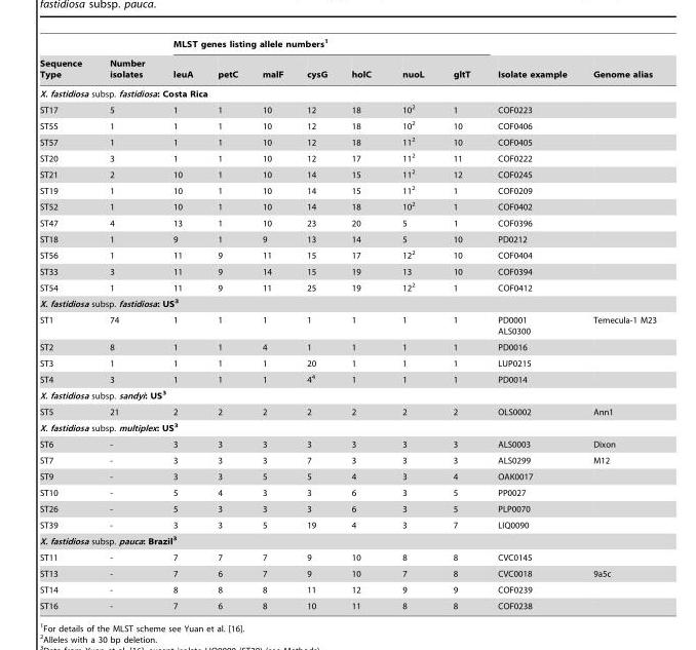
<table><thead><tr><td rowspan="2">Sequence Type</td><td rowspan="2">Number isolates</td><td colspan="7">MLST genes listing allele numbers<sup>1</sup></td><td rowspan="2">Isolate example</td><td rowspan="2">Genome alias</td></tr><tr><td>leuA</td><td>petC</td><td>malF</td><td>cysG</td><td>holC</td><td>nuoL</td><td>gltT</td></tr></thead><tbody><tr><td colspan="11">X. fastidiosa subsp. fastidiosa: Costa Rica</td></tr><tr><td>ST17</td><td>5</td><td>1</td><td>1</td><td>10</td><td>12</td><td>18</td><td>10<sup>2</sup></td><td>1</td><td>COF0223</td><td></td></tr><tr><td>ST55</td><td>1</td><td>1</td><td>1</td><td>10</td><td>12</td><td>18</td><td>10<sup>2</sup></td><td>10</td><td>COF0406</td><td></td></tr><tr><td>ST57</td><td>1</td><td>1</td><td>1</td><td>10</td><td>12</td><td>18</td><td>11<sup>2</sup></td><td>10</td><td>COF0405</td><td></td></tr><tr><td>ST20</td><td>3</td><td>1</td><td>1</td><td>10</td><td>12</td><td>17</td><td>11<sup>2</sup></td><td>11</td><td>COF0222</td><td></td></tr><tr><td>ST21</td><td>2</td><td>10</td><td>1</td><td>10</td><td>14</td><td>15</td><td>11<sup>2</sup></td><td>12</td><td>COF0245</td><td></td></tr><tr><td>ST19</td><td>1</td><td>10</td><td>1</td><td>10</td><td>14</td><td>15</td><td>11<sup>2</sup></td><td>1</td><td>COF0209</td><td></td></tr><tr><td>ST52</td><td>1</td><td>10</td><td>1</td><td>10</td><td>14</td><td>18</td><td>10<sup>2</sup></td><td>1</td><td>COF0402</td><td></td></tr><tr><td>ST47</td><td>4</td><td>13</td><td>1</td><td>10</td><td>23</td><td>20</td><td>5</td><td>1</td><td>COF0396</td><td></td></tr><tr><td>ST18</td><td>1</td><td>9</td><td>1</td><td>9</td><td>13</td><td>14</td><td>5</td><td>10</td><td>PD0212</td><td></td></tr><tr><td>ST56</td><td>1</td><td>11</td><td>9</td><td>11</td><td>15</td><td>17</td><td>12<sup>2</sup></td><td>10</td><td>COF0404</td><td></td></tr><tr><td>ST33</td><td>3</td><td>11</td><td>9</td><td>14</td><td>15</td><td>19</td><td>13</td><td>10</td><td>COF0394</td><td></td></tr><tr><td>ST54</td><td>1</td><td>11</td><td>9</td><td>11</td><td>25</td><td>19</td><td>12<sup>2</sup></td><td>1</td><td>COF0412</td><td></td></tr><tr><td colspan="11">X. fastidiosa subsp. fastidiosa: US3</td></tr><tr><td>ST1</td><td>74</td><td>1</td><td>1</td><td>1</td><td>1</td><td>1</td><td>1</td><td>1</td><td>PD0001 ALS0300</td><td>Temecula-1 M23</td></tr><tr><td>ST2</td><td>8</td><td>1</td><td>1</td><td>4</td><td>1</td><td>1</td><td>1</td><td>1</td><td>PD0016</td><td></td></tr><tr><td>ST3</td><td>1</td><td>1</td><td>1</td><td>1</td><td>20</td><td>1</td><td>1</td><td>1</td><td>LUP0215</td><td></td></tr><tr><td>ST4</td><td>3</td><td>1</td><td>1</td><td>1</td><td>4<sup>4</sup></td><td>1</td><td>1</td><td>1</td><td>PD0014</td><td></td></tr><tr><td colspan="11">X. fastidiosa subsp. sandyi: US3</td></tr><tr><td>ST5</td><td>21</td><td>2</td><td>2</td><td>2</td><td>2</td><td>2</td><td>2</td><td>2</td><td>OLS0002</td><td>Ann1</td></tr><tr><td colspan="11">X. fastidiosa subsp. multiplex: US3</td></tr><tr><td>ST6</td><td>-</td><td>3</td><td>3</td><td>3</td><td>3</td><td>3</td><td>3</td><td>3</td><td>ALS0003</td><td>Dixon</td></tr><tr><td>ST7</td><td>-</td><td>3</td><td>3</td><td>3</td><td>7</td><td>3</td><td>3</td><td>3</td><td>ALS0299</td><td>M12</td></tr><tr><td>ST9</td><td>-</td><td>3</td><td>3</td><td>5</td><td>5</td><td>4</td><td>3</td><td>4</td><td>OAK0017</td><td></td></tr><tr><td>ST10</td><td>-</td><td>5</td><td>4</td><td>3</td><td>3</td><td>6</td><td>3</td><td>5</td><td>PP0027</td><td></td></tr><tr><td>ST26</td><td>-</td><td>5</td><td>3</td><td>3</td><td>3</td><td>6</td><td>3</td><td>5</td><td>PLP0070</td><td></td></tr><tr><td>ST39</td><td>-</td><td>3</td><td>3</td><td>5</td><td>19</td><td>4</td><td>3</td><td>7</td><td>LIQ0090</td><td></td></tr><tr><td colspan="11">X. fastidiosa subsp. pauca: Brazil3</td></tr><tr><td>ST11</td><td>-</td><td>7</td><td>7</td><td>7</td><td>9</td><td>10</td><td>8</td><td>8</td><td>CVC0145</td><td></td></tr><tr><td>ST13</td><td>-</td><td>7</td><td>6</td><td>7</td><td>9</td><td>10</td><td>7</td><td>8</td><td>CVC0018</td><td>9a5c</td></tr><tr><td>ST14</td><td>-</td><td>8</td><td>8</td><td>8</td><td>11</td><td>12</td><td>9</td><td>9</td><td>COF0239</td><td></td></tr><tr><td>ST16</td><td>-</td><td>7</td><td>6</td><td>8</td><td>10</td><td>11</td><td>8</td><td>8</td><td>COF0238</td><td></td></tr></tbody></table>